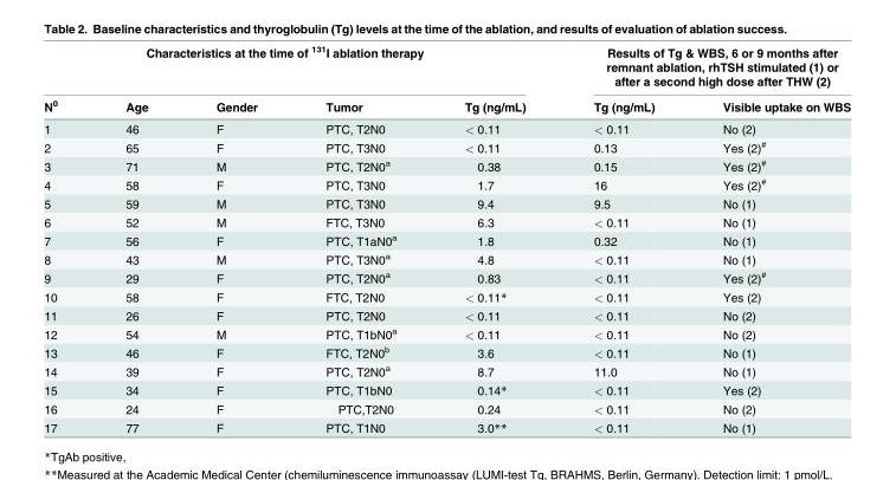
<table><thead><tr><td colspan="5">Characteristics at the time of <sup>131</sup>I ablation therapy</td><td colspan="2">Results of Tg &amp; WBS, 6 or 9 months after remnant ablation, rhTSH stimulated (1) or after a second high dose after THW (2)</td></tr><tr><td>N<sup>0</sup></td><td>Age</td><td>Gender</td><td>Tumor</td><td>Tg (ng/mL)</td><td>Tg (ng/mL)</td><td>Visible uptake on WBS</td></tr></thead><tbody><tr><td>1</td><td>46</td><td>F</td><td>PTC, T2N0</td><td>&lt; 0.11</td><td>&lt; 0.11</td><td>No (2)</td></tr><tr><td>2</td><td>65</td><td>F</td><td>PTC, T3N0</td><td>&lt; 0.11</td><td>0.13</td><td>Yes (2)<sup>#</sup></td></tr><tr><td>3</td><td>71</td><td>M</td><td>PTC, T2N0<sup>a</sup></td><td>0.38</td><td>0.15</td><td>Yes (2)<sup>#</sup></td></tr><tr><td>4</td><td>58</td><td>F</td><td>PTC, T3N0</td><td>1.7</td><td>16</td><td>Yes (2)<sup>#</sup></td></tr><tr><td>5</td><td>59</td><td>M</td><td>PTC, T3N0</td><td>9.4</td><td>9.5</td><td>No (1)</td></tr><tr><td>6</td><td>52</td><td>M</td><td>FTC, T3N0</td><td>6.3</td><td>&lt; 0.11</td><td>No (1)</td></tr><tr><td>7</td><td>56</td><td>F</td><td>PTC, T1aN0<sup>a</sup></td><td>1.8</td><td>0.32</td><td>No (1)</td></tr><tr><td>8</td><td>43</td><td>M</td><td>PTC, T3N0<sup>a</sup></td><td>4.8</td><td>&lt; 0.11</td><td>No (1)</td></tr><tr><td>9</td><td>29</td><td>F</td><td>PTC, T2N0<sup>a</sup></td><td>0.83</td><td>&lt; 0.11</td><td>Yes (2)<sup>#</sup></td></tr><tr><td>10</td><td>58</td><td>F</td><td>FTC, T2N0</td><td>&lt; 0.11*</td><td>&lt; 0.11</td><td>Yes (2)</td></tr><tr><td>11</td><td>26</td><td>F</td><td>PTC, T2N0</td><td>&lt; 0.11</td><td>&lt; 0.11</td><td>No (2)</td></tr><tr><td>12</td><td>54</td><td>M</td><td>PTC, T1bN0<sup>a</sup></td><td>&lt; 0.11</td><td>&lt; 0.11</td><td>No (2)</td></tr><tr><td>13</td><td>46</td><td>F</td><td>FTC, T2N0<sup>b</sup></td><td>3.6</td><td>&lt; 0.11</td><td>No (1)</td></tr><tr><td>14</td><td>39</td><td>F</td><td>PTC, T2N0<sup>a</sup></td><td>8.7</td><td>11.0</td><td>No (1)</td></tr><tr><td>15</td><td>34</td><td>F</td><td>PTC, T1bN0</td><td>0.14*</td><td>&lt; 0.11</td><td>Yes (2)</td></tr><tr><td>16</td><td>24</td><td>F</td><td>PTC,T2N0</td><td>0.24</td><td>&lt; 0.11</td><td>No (2)</td></tr><tr><td>17</td><td>77</td><td>F</td><td>PTC, T1N0</td><td>3.0**</td><td>&lt; 0.11</td><td>No (1)</td></tr></tbody></table>